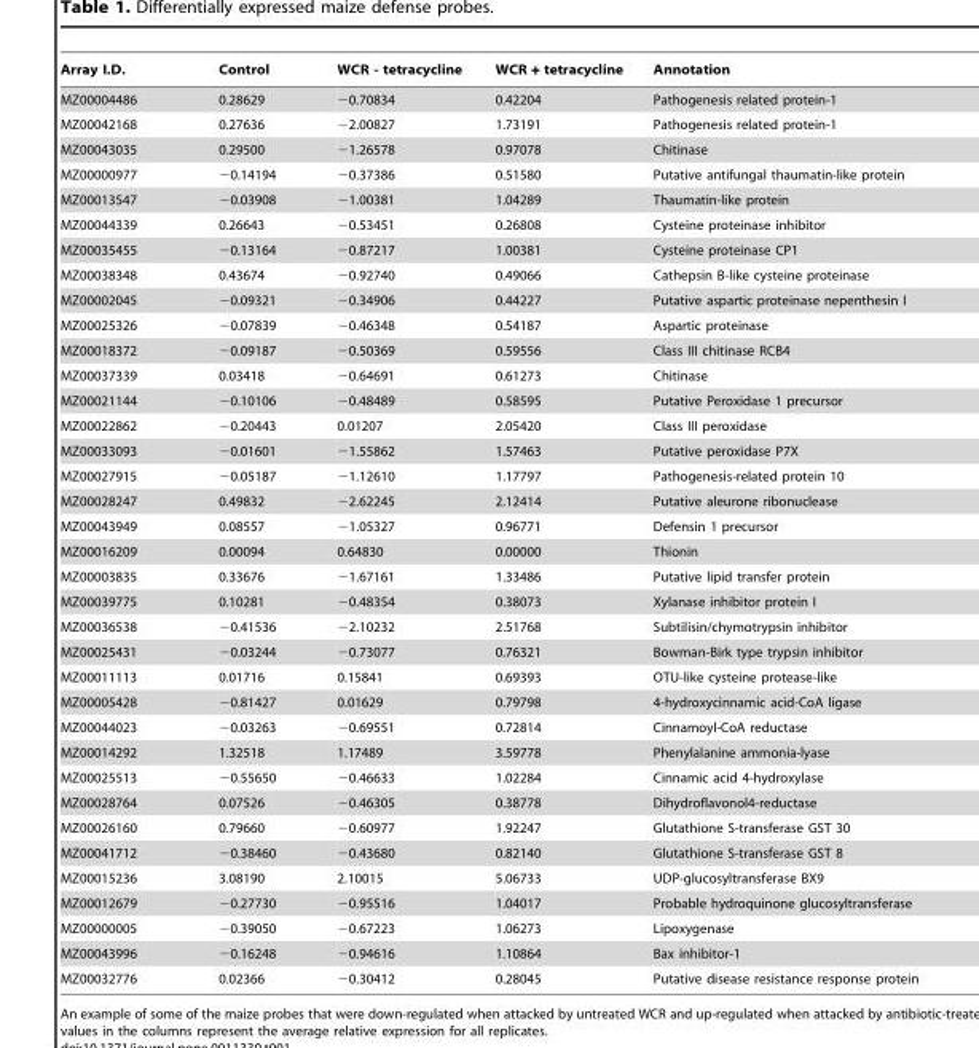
<table><thead><tr><td>Array I.D.</td><td>Control</td><td>WCR - tetracycline</td><td>WCR + tetracycline</td><td>Annotation</td></tr></thead><tbody><tr><td>MZ00004486</td><td>0.28629</td><td>−0.70834</td><td>0.42204</td><td>Pathogenesis related protein-1</td></tr><tr><td>MZ00042168</td><td>0.27636</td><td>−2.00827</td><td>1.73191</td><td>Pathogenesis related protein-1</td></tr><tr><td>MZ00043035</td><td>0.29500</td><td>−1.26578</td><td>0.97078</td><td>Chitinase</td></tr><tr><td>MZ00000977</td><td>−0.14194</td><td>−0.37386</td><td>0.51580</td><td>Putative antifungal thaumatin-like protein</td></tr><tr><td>MZ00013547</td><td>−0.03908</td><td>−1.00381</td><td>1.04289</td><td>Thaumatin-like protein</td></tr><tr><td>MZ00044339</td><td>0.26643</td><td>−0.53451</td><td>0.26808</td><td>Cysteine proteinase inhibitor</td></tr><tr><td>MZ00035455</td><td>−0.13164</td><td>−0.87217</td><td>1.00381</td><td>Cysteine proteinase CP1</td></tr><tr><td>MZ00038348</td><td>0.43674</td><td>−0.92740</td><td>0.49066</td><td>Cathepsin B-like cysteine proteinase</td></tr><tr><td>MZ00002045</td><td>−0.09321</td><td>−0.34906</td><td>0.44227</td><td>Putative aspartic proteinase nepenthesin I</td></tr><tr><td>MZ00025326</td><td>−0.07839</td><td>−0.46348</td><td>0.54187</td><td>Aspartic proteinase</td></tr><tr><td>MZ00018372</td><td>−0.09187</td><td>−0.50369</td><td>0.59556</td><td>Class III chitinase RCB4</td></tr><tr><td>MZ00037339</td><td>0.03418</td><td>−0.64691</td><td>0.61273</td><td>Chitinase</td></tr><tr><td>MZ00021144</td><td>−0.10106</td><td>−0.48489</td><td>0.58595</td><td>Putative Peroxidase 1 precursor</td></tr><tr><td>MZ00022862</td><td>−0.20443</td><td>0.01207</td><td>2.05420</td><td>Class III peroxidase</td></tr><tr><td>MZ00033093</td><td>−0.01601</td><td>−1.55862</td><td>1.57463</td><td>Putative peroxidase P7X</td></tr><tr><td>MZ00027915</td><td>−0.05187</td><td>−1.12610</td><td>1.17797</td><td>Pathogenesis-related protein 10</td></tr><tr><td>MZ00028247</td><td>0.49832</td><td>−2.62245</td><td>2.12414</td><td>Putative aleurone ribonuclease</td></tr><tr><td>MZ00043949</td><td>0.08557</td><td>−1.05327</td><td>0.96771</td><td>Defensin 1 precursor</td></tr><tr><td>MZ00016209</td><td>0.00094</td><td>0.64830</td><td>0.00000</td><td>Thionin</td></tr><tr><td>MZ00003835</td><td>0.33676</td><td>−1.67161</td><td>1.33486</td><td>Putative lipid transfer protein</td></tr><tr><td>MZ00039775</td><td>0.10281</td><td>−0.48354</td><td>0.38073</td><td>Xylanase inhibitor protein I</td></tr><tr><td>MZ00036538</td><td>−0.41536</td><td>−2.10232</td><td>2.51768</td><td>Subtilisin/chymotrypsin inhibitor</td></tr><tr><td>MZ00025431</td><td>−0.03244</td><td>−0.73077</td><td>0.76321</td><td>Bowman-Birk type trypsin inhibitor</td></tr><tr><td>MZ00011113</td><td>0.01716</td><td>0.15841</td><td>0.69393</td><td>OTU-like cysteine protease-like</td></tr><tr><td>MZ00005428</td><td>−0.81427</td><td>0.01629</td><td>0.79798</td><td>4-hydroxycinnamic acid-CoA ligase</td></tr><tr><td>MZ00044023</td><td>−0.03263</td><td>−0.69551</td><td>0.72814</td><td>Cinnamoyl-CoA reductase</td></tr><tr><td>MZ00014292</td><td>1.32518</td><td>1.17489</td><td>3.59778</td><td>Phenylalanine ammonia-lyase</td></tr><tr><td>MZ00025513</td><td>−0.55650</td><td>−0.46633</td><td>1.02284</td><td>Cinnamic acid 4-hydroxylase</td></tr><tr><td>MZ00028764</td><td>0.07526</td><td>−0.46305</td><td>0.38778</td><td>Dihydroflavonol4-reductase</td></tr><tr><td>MZ00026160</td><td>0.79660</td><td>−0.60977</td><td>1.92247</td><td>Glutathione S-transferase GST 30</td></tr><tr><td>MZ00041712</td><td>−0.38460</td><td>−0.43680</td><td>0.82140</td><td>Glutathione S-transferase GST 8</td></tr><tr><td>MZ00015236</td><td>3.08190</td><td>2.10015</td><td>5.06733</td><td>UDP-glucosyltransferase BX9</td></tr><tr><td>MZ00012679</td><td>−0.27730</td><td>−0.95516</td><td>1.04017</td><td>Probable hydroquinone glucosyltransferase</td></tr><tr><td>MZ00000005</td><td>−0.39050</td><td>−0.67223</td><td>1.06273</td><td>Lipoxygenase</td></tr><tr><td>MZ00043996</td><td>−0.16248</td><td>−0.94616</td><td>1.10864</td><td>Bax inhibitor-1</td></tr><tr><td>MZ00032776</td><td>0.02366</td><td>−0.30412</td><td>0.28045</td><td>Putative disease resistance response protein</td></tr></tbody></table>